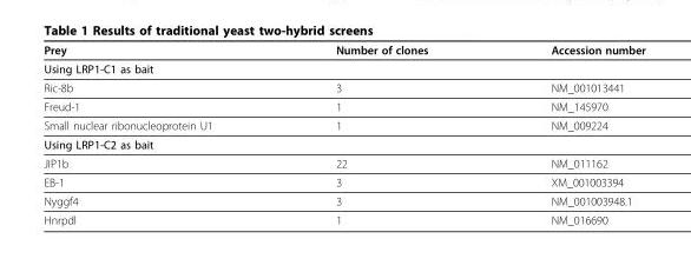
<table><thead><tr><td>Prey</td><td>Number of clones</td><td>Accession number</td></tr></thead><tbody><tr><td colspan="3">Using LRP1-C1 as bait</td></tr><tr><td>Ric-8b</td><td>3</td><td>NM_001013441</td></tr><tr><td>Freud-1</td><td>1</td><td>NM_145970</td></tr><tr><td>Small nuclear ribonucleoprotein U1</td><td>1</td><td>NM_009224</td></tr><tr><td colspan="3">Using LRP1-C2 as bait</td></tr><tr><td>JIP1b</td><td>22</td><td>NM_011162</td></tr><tr><td>EB-1</td><td>3</td><td>XM_001003394</td></tr><tr><td>Nyggf4</td><td>3</td><td>NM_001003948.1</td></tr><tr><td>Hnrpdl</td><td>1</td><td>NM_016690</td></tr></tbody></table>